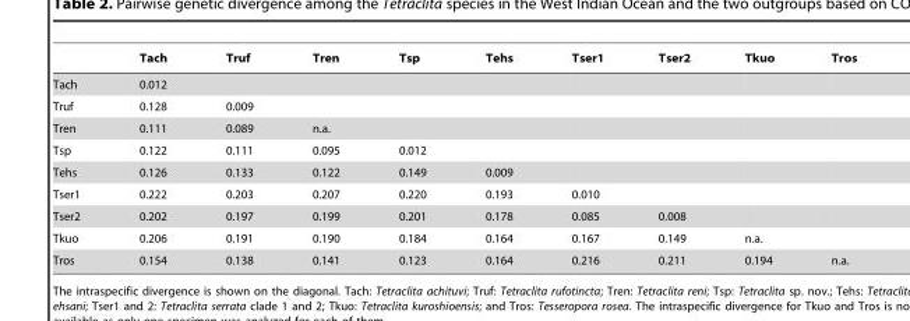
<table><thead><tr><td></td><td>Tach</td><td>Truf</td><td>Tren</td><td>Tsp</td><td>Tehs</td><td>Tser1</td><td>Tser2</td><td>Tkuo</td><td>Tros</td></tr></thead><tbody><tr><td>Tach</td><td>0.012</td><td></td><td></td><td></td><td></td><td></td><td></td><td></td><td></td></tr><tr><td>Truf</td><td>0.128</td><td>0.009</td><td></td><td></td><td></td><td></td><td></td><td></td><td></td></tr><tr><td>Tren</td><td>0.111</td><td>0.089</td><td>n.a.</td><td></td><td></td><td></td><td></td><td></td><td></td></tr><tr><td>Tsp</td><td>0.122</td><td>0.111</td><td>0.095</td><td>0.012</td><td></td><td></td><td></td><td></td><td></td></tr><tr><td>Tehs</td><td>0.126</td><td>0.133</td><td>0.122</td><td>0.149</td><td>0.009</td><td></td><td></td><td></td><td></td></tr><tr><td>Tser1</td><td>0.222</td><td>0.203</td><td>0.207</td><td>0.220</td><td>0.193</td><td>0.010</td><td></td><td></td><td></td></tr><tr><td>Tser2</td><td>0.202</td><td>0.197</td><td>0.199</td><td>0.201</td><td>0.178</td><td>0.085</td><td>0.008</td><td></td><td></td></tr><tr><td>Tkuo</td><td>0.206</td><td>0.191</td><td>0.190</td><td>0.184</td><td>0.164</td><td>0.167</td><td>0.149</td><td>n.a.</td><td></td></tr><tr><td>Tros</td><td>0.154</td><td>0.138</td><td>0.141</td><td>0.123</td><td>0.164</td><td>0.216</td><td>0.211</td><td>0.194</td><td>n.a.</td></tr></tbody></table>